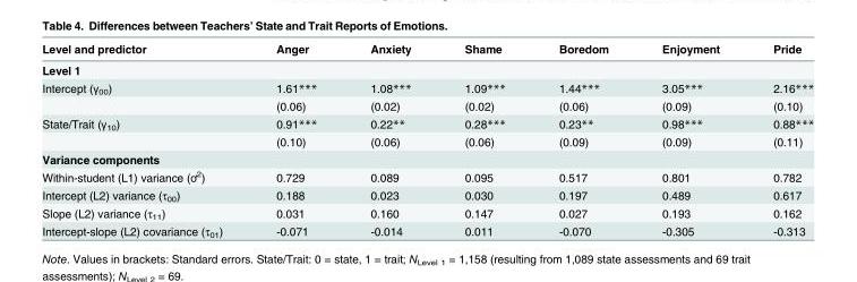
<table><thead><tr><td>Level and predictor</td><td>Anger</td><td>Anxiety</td><td>Shame</td><td>Boredom</td><td>Enjoyment</td><td>Pride</td></tr></thead><tbody><tr><td colspan="7">Level 1</td></tr><tr><td rowspan="2">Intercept (γ<sub>00</sub>)</td><td>1.61***</td><td>1.08***</td><td>1.09***</td><td>1.44***</td><td>3.05***</td><td>2.16***</td></tr><tr><td>(0.06)</td><td>(0.02)</td><td>(0.02)</td><td>(0.06)</td><td>(0.09)</td><td>(0.10)</td></tr><tr><td rowspan="2">State/Trait (γ<sub>10</sub>)</td><td>0.91***</td><td>0.22**</td><td>0.28***</td><td>0.23**</td><td>0.98***</td><td>0.88***</td></tr><tr><td>(0.10)</td><td>(0.06)</td><td>(0.06)</td><td>(0.09)</td><td>(0.09)</td><td>(0.11)</td></tr><tr><td colspan="7">Variance components</td></tr><tr><td>Within-student (L1) variance (ơ<sup>2</sup>)</td><td>0.729</td><td>0.089</td><td>0.095</td><td>0.517</td><td>0.801</td><td>0.782</td></tr><tr><td>Intercept (L2) variance (τ<sub>00</sub>)</td><td>0.188</td><td>0.023</td><td>0.030</td><td>0.197</td><td>0.489</td><td>0.617</td></tr><tr><td>Slope (L2) variance (τ<sub>11</sub>)</td><td>0.031</td><td>0.160</td><td>0.147</td><td>0.027</td><td>0.193</td><td>0.162</td></tr><tr><td>Intercept-slope (L2) covariance (τ<sub>01</sub>)</td><td>-0.071</td><td>-0.014</td><td>0.011</td><td>-0.070</td><td>-0.305</td><td>-0.313</td></tr></tbody></table>